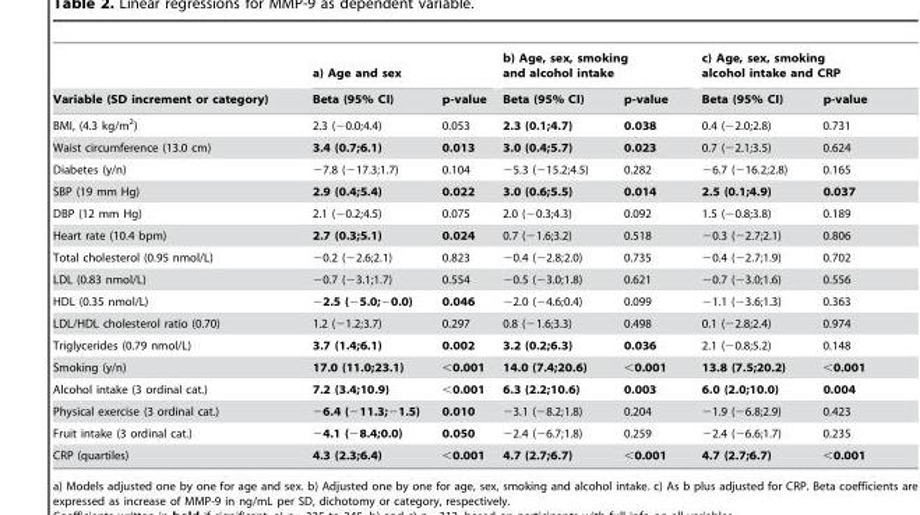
<table><thead><tr><td rowspan="2">Variable (SD increment or category)</td><td colspan="2">a) Age and sex</td><td colspan="2">b) Age, sex, smoking and alcohol intake</td><td colspan="2">c) Age, sex, smoking alcohol intake and CRP</td></tr><tr><td>Beta (95% CI)</td><td>p-value</td><td>Beta (95% CI)</td><td>p-value</td><td>Beta (95% CI)</td><td>p-value</td></tr></thead><tbody><tr><td>BMI, (4.3 kg/m<sup>2</sup>)</td><td>2.3 (−0.0;4.4)</td><td>0.053</td><td>2.3 (0.1;4.7)</td><td>0.038</td><td>0.4 (−2.0;2.8)</td><td>0.731</td></tr><tr><td>Waist circumference (13.0 cm)</td><td>3.4 (0.7;6.1)</td><td>0.013</td><td>3.0 (0.4;5.7)</td><td>0.023</td><td>0.7 (−2.1;3.5)</td><td>0.624</td></tr><tr><td>Diabetes (y/n)</td><td>−7.8 (−17.3;1.7)</td><td>0.104</td><td>−5.3 (−15.2;4.5)</td><td>0.282</td><td>−6.7 (−16.2;2.8)</td><td>0.165</td></tr><tr><td>SBP (19 mm Hg)</td><td>2.9 (0.4;5.4)</td><td>0.022</td><td>3.0 (0.6;5.5)</td><td>0.014</td><td>2.5 (0.1;4.9)</td><td>0.037</td></tr><tr><td>DBP (12 mm Hg)</td><td>2.1 (−0.2;4.5)</td><td>0.075</td><td>2.0 (−0.3;4.3)</td><td>0.092</td><td>1.5 (−0.8;3.8)</td><td>0.189</td></tr><tr><td>Heart rate (10.4 bpm)</td><td>2.7 (0.3;5.1)</td><td>0.024</td><td>0.7 (−1.6;3.2)</td><td>0.518</td><td>−0.3 (−2.7;2.1)</td><td>0.806</td></tr><tr><td>Total cholesterol (0.95 nmol/L)</td><td>−0.2 (−2.6;2.1)</td><td>0.823</td><td>−0.4 (−2.8;2.0)</td><td>0.735</td><td>−0.4 (−2.7;1.9)</td><td>0.702</td></tr><tr><td>LDL (0.83 nmol/L)</td><td>−0.7 (−3.1;1.7)</td><td>0.554</td><td>−0.5 (−3.0;1.8)</td><td>0.621</td><td>−0.7 (−3.0;1.6)</td><td>0.556</td></tr><tr><td>HDL (0.35 nmol/L)</td><td>−2.5 (−5.0;−0.0)</td><td>0.046</td><td>−2.0 (−4.6;0.4)</td><td>0.099</td><td>−1.1 (−3.6;1.3)</td><td>0.363</td></tr><tr><td>LDL/HDL cholesterol ratio (0.70)</td><td>1.2 (−1.2;3.7)</td><td>0.297</td><td>0.8 (−1.6;3.3)</td><td>0.498</td><td>0.1 (−2.8;2.4)</td><td>0.974</td></tr><tr><td>Triglycerides (0.79 nmol/L)</td><td>3.7 (1.4;6.1)</td><td>0.002</td><td>3.2 (0.2;6.3)</td><td>0.036</td><td>2.1 (−0.8;5.2)</td><td>0.148</td></tr><tr><td>Smoking (y/n)</td><td>17.0 (11.0;23.1)</td><td>&lt;0.001</td><td>14.0 (7.4;20.6)</td><td>&lt;0.001</td><td>13.8 (7.5;20.2)</td><td>&lt;0.001</td></tr><tr><td>Alcohol intake (3 ordinal cat.)</td><td>7.2 (3.4;10.9)</td><td>&lt;0.001</td><td>6.3 (2.2;10.6)</td><td>0.003</td><td>6.0 (2.0;10.0)</td><td>0.004</td></tr><tr><td>Physical exercise (3 ordinal cat.)</td><td>−6.4 (−11.3;−1.5)</td><td>0.010</td><td>−3.1 (−8.2;1.8)</td><td>0.204</td><td>−1.9 (−6.8;2.9)</td><td>0.423</td></tr><tr><td>Fruit intake (3 ordinal cat.)</td><td>−4.1 (−8.4;0.0)</td><td>0.050</td><td>−2.4 (−6.7;1.8)</td><td>0.259</td><td>−2.4 (−6.6;1.7)</td><td>0.235</td></tr><tr><td>CRP (quartiles)</td><td>4.3 (2.3;6.4)</td><td>&lt;0.001</td><td>4.7 (2.7;6.7)</td><td>&lt;0.001</td><td>4.7 (2.7;6.7)</td><td>&lt;0.001</td></tr></tbody></table>